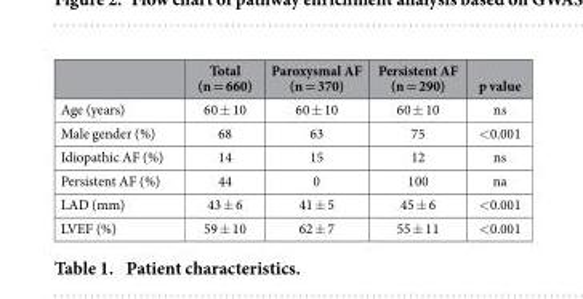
<table><thead><tr><td></td><td>Total (n = 660)</td><td>Paroxysmal AF (n = 370)</td><td>Persistent AF (n = 290)</td><td>p value</td></tr></thead><tbody><tr><td>Age (years)</td><td>60 ± 10</td><td>60 ± 10</td><td>60 ± 10</td><td>ns</td></tr><tr><td>Male gender (%)</td><td>68</td><td>63</td><td>75</td><td>&lt; 0.001</td></tr><tr><td>Idiopathic AF (%)</td><td>14</td><td>15</td><td>12</td><td>ns</td></tr><tr><td>Persistent AF (%)</td><td>44</td><td>0</td><td>100</td><td>na</td></tr><tr><td>LAD (mm)</td><td>43 ± 6</td><td>41 ± 5</td><td>45 ± 6</td><td>&lt; 0.001</td></tr><tr><td>LVEF (%)</td><td>59 ± 10</td><td>62 ± 7</td><td>55 ± 11</td><td>&lt; 0.001</td></tr></tbody></table>